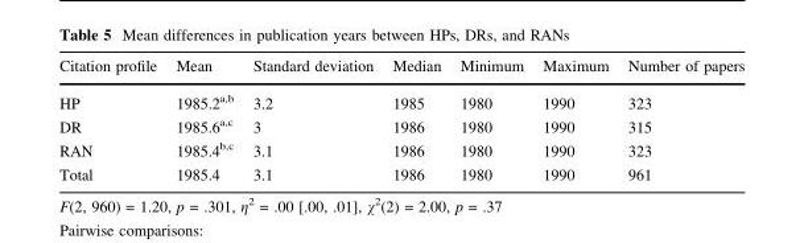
<table><thead><tr><td>Citation profile</td><td>Mean</td><td>Standard deviation</td><td>Median</td><td>Minimum</td><td>Maximum</td><td>Number of papers</td></tr></thead><tbody><tr><td>HP</td><td>1985.2<sup>a,b</sup></td><td>3.2</td><td>1985</td><td>1980</td><td>1990</td><td>323</td></tr><tr><td>DR</td><td>1985.6<sup>a,c</sup></td><td>3</td><td>1986</td><td>1980</td><td>1990</td><td>315</td></tr><tr><td>RAN</td><td>1985.4<sup>b,c</sup></td><td>3.1</td><td>1986</td><td>1980</td><td>1990</td><td>323</td></tr><tr><td>Total</td><td>1985.4</td><td>3.1</td><td>1986</td><td>1980</td><td>1990</td><td>961</td></tr></tbody></table>